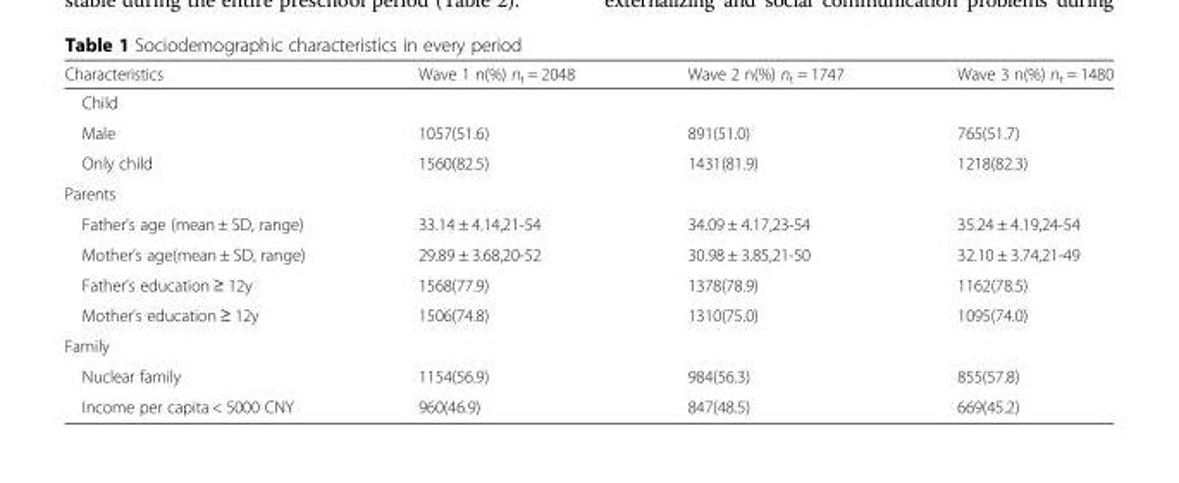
<table><thead><tr><td>Characteristics</td><td>Wave 1 n(%) n<sub>t</sub> = 2048</td><td>Wave 2 n(%) n<sub>t</sub> = 1747</td><td>Wave 3 n(%) n<sub>t</sub> = 1480</td></tr></thead><tbody><tr><td colspan="4">Child</td></tr><tr><td>Male</td><td>1057(51.6)</td><td>891(51.0)</td><td>765(51.7)</td></tr><tr><td>Only child</td><td>1560(82.5)</td><td>1431(81.9)</td><td>1218(82.3)</td></tr><tr><td colspan="4">Parents</td></tr><tr><td>Father’s age (mean ± SD, range)</td><td>33.14 ± 4.14,21-54</td><td>34.09 ± 4.17,23-54</td><td>35.24 ± 4.19,24-54</td></tr><tr><td>Mother’s age(mean ± SD, range)</td><td>29.89 ± 3.68,20-52</td><td>30.98 ± 3.85,21-50</td><td>32.10 ± 3.74,21-49</td></tr><tr><td>Father’s education ≥ 12y</td><td>1568(77.9)</td><td>1378(78.9)</td><td>1162(78.5)</td></tr><tr><td>Mother’s education ≥ 12y</td><td>1506(74.8)</td><td>1310(75.0)</td><td>1095(74.0)</td></tr><tr><td colspan="4">Family</td></tr><tr><td>Nuclear family</td><td>1154(56.9)</td><td>984(56.3)</td><td>855(57.8)</td></tr><tr><td>Income per capita &lt; 5000 CNY</td><td>960(46.9)</td><td>847(48.5)</td><td>669(45.2)</td></tr></tbody></table>